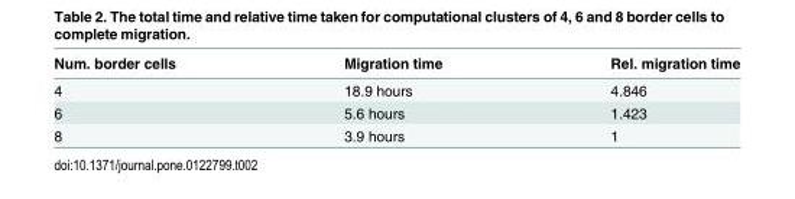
<table><thead><tr><td>Num. border cells</td><td>Migration time</td><td>Rel. migration time</td></tr></thead><tbody><tr><td>4</td><td>18.9 hours</td><td>4.846</td></tr><tr><td>6</td><td>5.6 hours</td><td>1.423</td></tr><tr><td>8</td><td>3.9 hours</td><td>1</td></tr></tbody></table>